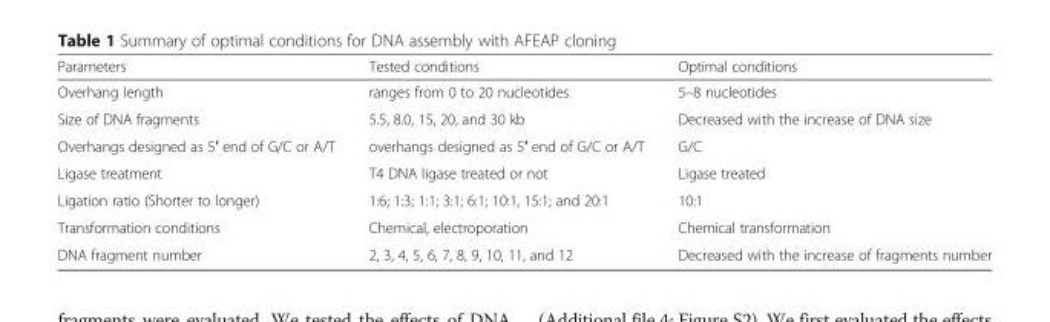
<table><thead><tr><td>Parameters</td><td>Tested conditions</td><td>Optimal conditions</td></tr></thead><tbody><tr><td>Overhang length</td><td>ranges from 0 to 20 nucleotides</td><td>5–8 nucleotides</td></tr><tr><td>Size of DNA fragments</td><td>5.5, 8.0, 15, 20, and 30 kb</td><td>Decreased with the increase of DNA size</td></tr><tr><td>Overhangs designed as 5′ end of G/C or A/T</td><td>overhangs designed as 5′ end of G/C or A/T</td><td>G/C</td></tr><tr><td>Ligase treatment</td><td>T4 DNA ligase treated or not</td><td>Ligase treated</td></tr><tr><td>Ligation ratio (Shorter to longer)</td><td>1:6; 1:3; 1:1; 3:1; 6:1; 10:1, 15:1; and 20:1</td><td>10:1</td></tr><tr><td>Transformation conditions</td><td>Chemical, electroporation</td><td>Chemical transformation</td></tr><tr><td>DNA fragment number</td><td>2, 3, 4, 5, 6, 7, 8, 9, 10, 11, and 12</td><td>Decreased with the increase of fragments number</td></tr></tbody></table>